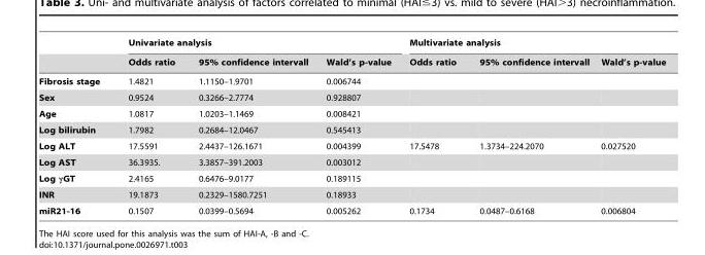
<table><thead><tr><td rowspan="2"></td><td colspan="3">Univariate analysis</td><td colspan="3">Multivariate analysis</td></tr><tr><td>Odds ratio</td><td>95% confidence intervall</td><td>Wald’s p-value</td><td>Odds ratio</td><td>95% confidence intervall</td><td>Wald’s p-value</td></tr></thead><tbody><tr><td>Fibrosis stage</td><td>1.4821</td><td>1.1150–1.9701</td><td>0.006744</td><td></td><td></td><td></td></tr><tr><td>Sex</td><td>0.9524</td><td>0.3266–2.7774</td><td>0.928807</td><td></td><td></td><td></td></tr><tr><td>Age</td><td>1.0817</td><td>1.0203–1.1469</td><td>0.008421</td><td></td><td></td><td></td></tr><tr><td>Log bilirubin</td><td>1.7982</td><td>0.2684–12.0467</td><td>0.545413</td><td></td><td></td><td></td></tr><tr><td>Log ALT</td><td>17.5591</td><td>2.4437–126.1671</td><td>0.004399</td><td>17.5478</td><td>1.3734–224.2070</td><td>0.027520</td></tr><tr><td>Log AST</td><td>36.3935.</td><td>3.3857–391.2003</td><td>0.003012</td><td></td><td></td><td></td></tr><tr><td>Log γGT</td><td>2.4165</td><td>0.6476–9.0177</td><td>0.189115</td><td></td><td></td><td></td></tr><tr><td>INR</td><td>19.1873</td><td>0.2329–1580.7251</td><td>0.18933</td><td></td><td></td><td></td></tr><tr><td>miR21-16</td><td>0.1507</td><td>0.0399–0.5694</td><td>0.005262</td><td>0.1734</td><td>0.0487–0.6168</td><td>0.006804</td></tr></tbody></table>